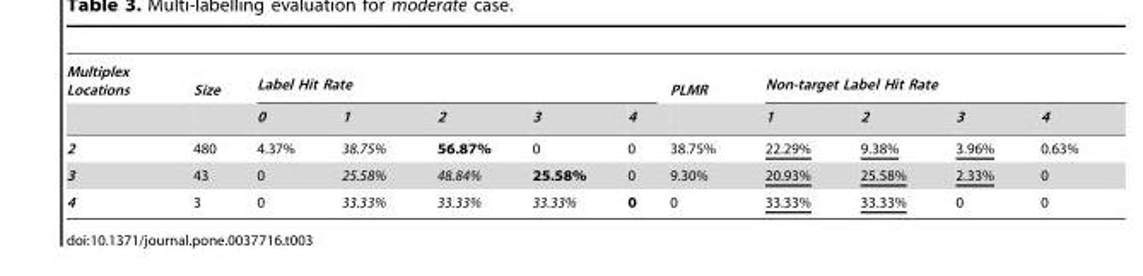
<table><thead><tr><td rowspan="2">Multiplex Locations</td><td rowspan="2">Size</td><td colspan="5">Label Hit Rate</td><td rowspan="2">PLMR</td><td colspan="4">Non-target Label Hit Rate</td></tr><tr><td>0</td><td>1</td><td>2</td><td>3</td><td>4</td><td>1</td><td>2</td><td>3</td><td>4</td></tr></thead><tbody><tr><td>2</td><td>480</td><td>4.37%</td><td>38.75%</td><td>56.87%</td><td>0</td><td>0</td><td>38.75%</td><td>22.29%</td><td>9.38%</td><td>3.96%</td><td>0.63%</td></tr><tr><td>3</td><td>43</td><td>0</td><td>25.58%</td><td>48.84%</td><td>25.58%</td><td>0</td><td>9.30%</td><td>20.93%</td><td>25.58%</td><td>2.33%</td><td>0</td></tr><tr><td>4</td><td>3</td><td>0</td><td>33.33%</td><td>33.33%</td><td>33.33%</td><td>0</td><td>0</td><td>33.33%</td><td>33.33%</td><td>0</td><td>0</td></tr></tbody></table>